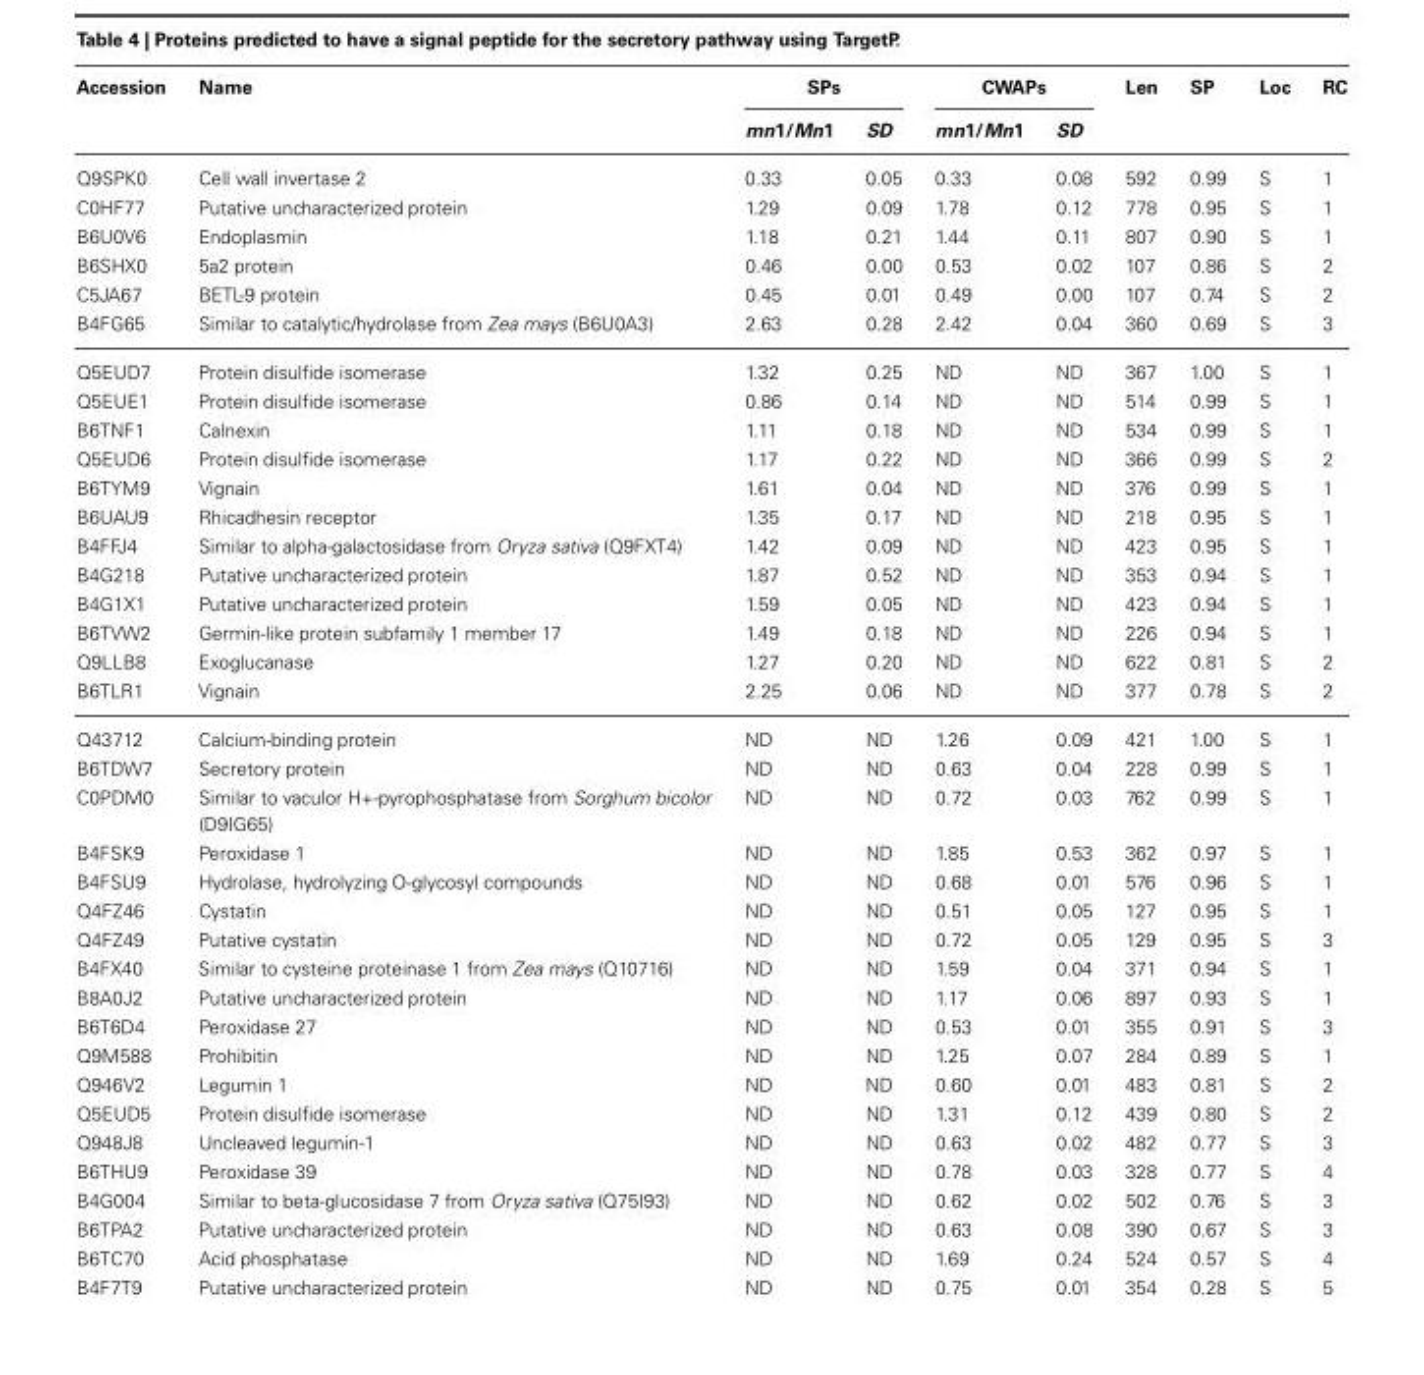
<table><thead><tr><td rowspan="2">Accession</td><td rowspan="2">Name</td><td colspan="2">SPs</td><td colspan="2">CWAPs</td><td rowspan="2">Len</td><td rowspan="2">SP</td><td rowspan="2">Loc</td><td rowspan="2">RC</td></tr><tr><td>mn1/Mn1</td><td>SD</td><td>mn1/Mn1</td><td>SD</td></tr></thead><tbody><tr><td>Q9SPK0</td><td>Cell wall invertase 2</td><td>0.33</td><td>0.05</td><td>0.33</td><td>0.08</td><td>592</td><td>0.99</td><td>S</td><td>1</td></tr><tr><td>C0HF77</td><td>Putative uncharacterized protein</td><td>1.29</td><td>0.09</td><td>1.78</td><td>0.12</td><td>778</td><td>0.95</td><td>S</td><td>1</td></tr><tr><td>B6U0V6</td><td>Endoplasmin</td><td>1.18</td><td>0.21</td><td>1.44</td><td>0.11</td><td>807</td><td>0.90</td><td>S</td><td>1</td></tr><tr><td>B6SHX0</td><td>5a2 protein</td><td>0.46</td><td>0.00</td><td>0.53</td><td>0.02</td><td>107</td><td>0.86</td><td>S</td><td>2</td></tr><tr><td>C5JA67</td><td>BETL-9 protein</td><td>0.45</td><td>0.01</td><td>0.49</td><td>0.00</td><td>107</td><td>0.74</td><td>S</td><td>2</td></tr><tr><td>B4FG65</td><td>Similar to catalytic/hydrolase from Zea mays (B6U0A3)</td><td>2.63</td><td>0.28</td><td>2.42</td><td>0.04</td><td>360</td><td>0.69</td><td>S</td><td>3</td></tr><tr><td>Q5EUD7</td><td>Protein disulfide isomerase</td><td>1.32</td><td>0.25</td><td>ND</td><td>ND</td><td>367</td><td>1.00</td><td>S</td><td>1</td></tr><tr><td>Q5EUE1</td><td>Protein disulfide isomerase</td><td>0.86</td><td>0.14</td><td>ND</td><td>ND</td><td>514</td><td>0.99</td><td>S</td><td>1</td></tr><tr><td>B6TNF1</td><td>Calnexin</td><td>1.11</td><td>0.18</td><td>ND</td><td>ND</td><td>534</td><td>0.99</td><td>S</td><td>1</td></tr><tr><td>Q5EUD6</td><td>Protein disulfide isomerase</td><td>1.17</td><td>0.22</td><td>ND</td><td>ND</td><td>366</td><td>0.99</td><td>S</td><td>2</td></tr><tr><td>B6TYM9</td><td>Vignain</td><td>1.61</td><td>0.04</td><td>ND</td><td>ND</td><td>376</td><td>0.99</td><td>S</td><td>1</td></tr><tr><td>B6UAU9</td><td>Rhicadhesin receptor</td><td>1.35</td><td>0.17</td><td>ND</td><td>ND</td><td>218</td><td>0.95</td><td>S</td><td>1</td></tr><tr><td>B4FFJ4</td><td>Similar to alpha-galactosidase from Oryza sativa (Q9FXT4)</td><td>1.42</td><td>0.09</td><td>ND</td><td>ND</td><td>423</td><td>0.95</td><td>S</td><td>1</td></tr><tr><td>B4G218</td><td>Putative uncharacterized protein</td><td>1.87</td><td>0.52</td><td>ND</td><td>ND</td><td>353</td><td>0.94</td><td>S</td><td>1</td></tr><tr><td>B4G1X1</td><td>Putative uncharacterized protein</td><td>1.59</td><td>0.05</td><td>ND</td><td>ND</td><td>423</td><td>0.94</td><td>S</td><td>1</td></tr><tr><td>B6TVW2</td><td>Germin-like protein subfamily 1 member 17</td><td>1.49</td><td>0.18</td><td>ND</td><td>ND</td><td>226</td><td>0.94</td><td>S</td><td>1</td></tr><tr><td>Q9LLB8</td><td>Exoglucanase</td><td>1.27</td><td>0.20</td><td>ND</td><td>ND</td><td>622</td><td>0.81</td><td>S</td><td>2</td></tr><tr><td>B6TLR1</td><td>Vignain</td><td>2.25</td><td>0.06</td><td>ND</td><td>ND</td><td>377</td><td>0.78</td><td>S</td><td>2</td></tr><tr><td>Q43712</td><td>Calcium-binding protein</td><td>ND</td><td>ND</td><td>1.26</td><td>0.09</td><td>421</td><td>1.00</td><td>S</td><td>1</td></tr><tr><td>B6TDW7</td><td>Secretory protein</td><td>ND</td><td>ND</td><td>0.63</td><td>0.04</td><td>228</td><td>0.99</td><td>S</td><td>1</td></tr><tr><td>C0PDM0</td><td>Similar to vaculor H+-pyrophosphatase from Sorghum bicolor (D9IG65)</td><td>ND</td><td>ND</td><td>0.72</td><td>0.03</td><td>762</td><td>0.99</td><td>S</td><td>1</td></tr><tr><td>B4FSK9</td><td>Peroxidase 1</td><td>ND</td><td>ND</td><td>1.85</td><td>0.53</td><td>362</td><td>0.97</td><td>S</td><td>1</td></tr><tr><td>B4FSU9</td><td>Hydrolase, hydrolyzing O-glycosyl compounds</td><td>ND</td><td>ND</td><td>0.68</td><td>0.01</td><td>576</td><td>0.96</td><td>S</td><td>1</td></tr><tr><td>Q4FZ46</td><td>Cystatin</td><td>ND</td><td>ND</td><td>0.51</td><td>0.05</td><td>127</td><td>0.95</td><td>S</td><td>1</td></tr><tr><td>Q4FZ49</td><td>Putative cystatin</td><td>ND</td><td>ND</td><td>0.72</td><td>0.05</td><td>129</td><td>0.95</td><td>S</td><td>3</td></tr><tr><td>B4FX40</td><td>Similar to cysteine proteinase 1 from Zea mays (Q10716)</td><td>ND</td><td>ND</td><td>1.59</td><td>0.04</td><td>371</td><td>0.94</td><td>S</td><td>1</td></tr><tr><td>B8A0J2</td><td>Putative uncharacterized protein</td><td>ND</td><td>ND</td><td>1.17</td><td>0.06</td><td>897</td><td>0.93</td><td>S</td><td>1</td></tr><tr><td>B6T6D4</td><td>Peroxidase 27</td><td>ND</td><td>ND</td><td>0.53</td><td>0.01</td><td>355</td><td>0.91</td><td>S</td><td>3</td></tr><tr><td>Q9M588</td><td>Prohibitin</td><td>ND</td><td>ND</td><td>1.25</td><td>0.07</td><td>284</td><td>0.89</td><td>S</td><td>1</td></tr><tr><td>Q946V2</td><td>Legumin 1</td><td>ND</td><td>ND</td><td>0.60</td><td>0.01</td><td>483</td><td>0.81</td><td>S</td><td>2</td></tr><tr><td>Q5EUD5</td><td>Protein disulfide isomerase</td><td>ND</td><td>ND</td><td>1.31</td><td>0.12</td><td>439</td><td>0.80</td><td>S</td><td>2</td></tr><tr><td>Q948J8</td><td>Uncleaved legumin-1</td><td>ND</td><td>ND</td><td>0.63</td><td>0.02</td><td>482</td><td>0.77</td><td>S</td><td>3</td></tr><tr><td>B6THU9</td><td>Peroxidase 39</td><td>ND</td><td>ND</td><td>0.78</td><td>0.03</td><td>328</td><td>0.77</td><td>S</td><td>4</td></tr><tr><td>B4G004</td><td>Similar to beta-glucosidase 7 from Oryza sativa (Q75I93)</td><td>ND</td><td>ND</td><td>0.62</td><td>0.02</td><td>502</td><td>0.76</td><td>S</td><td>3</td></tr><tr><td>B6TPA2</td><td>Putative uncharacterized protein</td><td>ND</td><td>ND</td><td>0.63</td><td>0.08</td><td>390</td><td>0.67</td><td>S</td><td>3</td></tr><tr><td>B6TC70</td><td>Acid phosphatase</td><td>ND</td><td>ND</td><td>1.69</td><td>0.24</td><td>524</td><td>0.57</td><td>S</td><td>4</td></tr><tr><td>B4F7T9</td><td>Putative uncharacterized protein</td><td>ND</td><td>ND</td><td>0.75</td><td>0.01</td><td>354</td><td>0.28</td><td>S</td><td>5</td></tr></tbody></table>